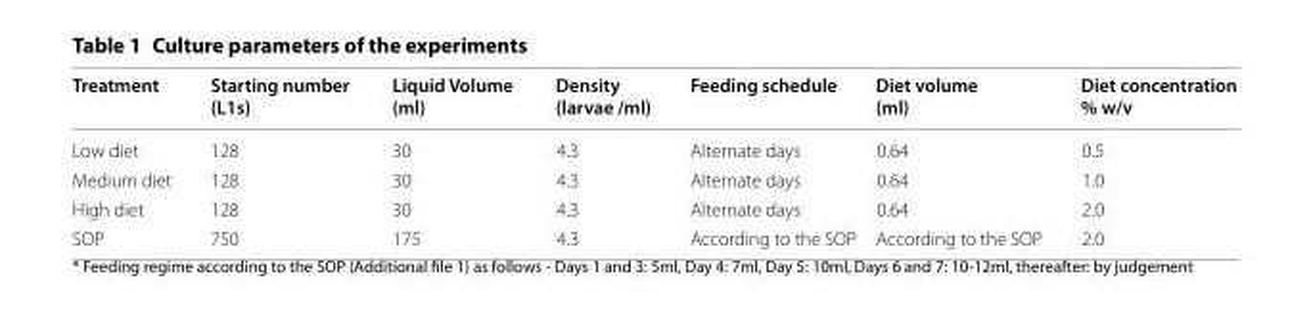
<table><thead><tr><td>Treatment</td><td>Starting number (L1s)</td><td>Liquid Volume (ml)</td><td>Density (larvae /ml)</td><td>Feeding schedule</td><td>Diet volume (ml)</td><td>Diet concentration % w/v</td></tr></thead><tbody><tr><td>Low diet</td><td>128</td><td>30</td><td>4.3</td><td>Alternate days</td><td>0.64</td><td>0.5</td></tr><tr><td>Medium diet</td><td>128</td><td>30</td><td>4.3</td><td>Alternate days</td><td>0.64</td><td>1.0</td></tr><tr><td>High diet</td><td>128</td><td>30</td><td>4.3</td><td>Alternate days</td><td>0.64</td><td>2.0</td></tr><tr><td>SOP</td><td>750</td><td>175</td><td>4.3</td><td>According to the SOP</td><td>According to the SOP</td><td>2.0</td></tr></tbody></table>